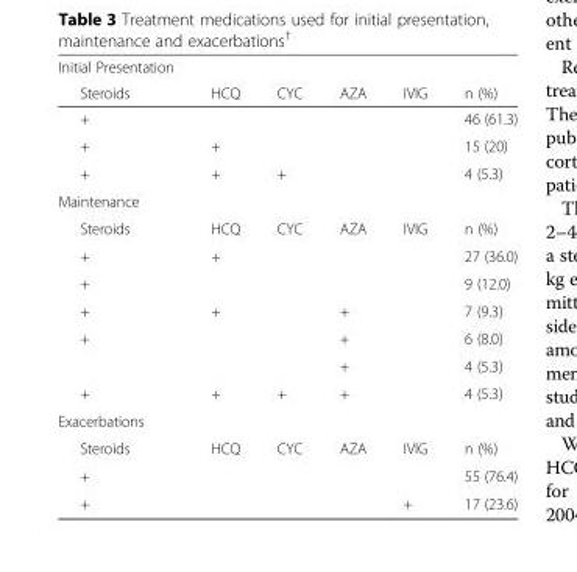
<table><thead><tr><td rowspan="2">Initial Presentation Steroids</td><td rowspan="2">HCQ</td><td rowspan="2">CYC</td><td rowspan="2">AZA</td><td rowspan="2">IVIG</td><td rowspan="2">n (%)</td></tr><tr></tr></thead><tbody><tr><td>+</td><td></td><td></td><td></td><td></td><td>46 (61.3)</td></tr><tr><td>+</td><td>+</td><td></td><td></td><td></td><td>15 (20)</td></tr><tr><td>+</td><td>+</td><td>+</td><td></td><td></td><td>4 (5.3)</td></tr><tr><td colspan="6">Maintenance</td></tr><tr><td>Steroids</td><td>HCQ</td><td>CYC</td><td>AZA</td><td>IVIG</td><td>n (%)</td></tr><tr><td>+</td><td>+</td><td></td><td></td><td></td><td>27 (36.0)</td></tr><tr><td>+</td><td></td><td></td><td></td><td></td><td>9 (12.0)</td></tr><tr><td>+</td><td>+</td><td></td><td>+</td><td></td><td>7 (9.3)</td></tr><tr><td rowspan="2">+</td><td></td><td></td><td>+</td><td></td><td>6 (8.0)</td></tr><tr><td></td><td></td><td>+</td><td></td><td>4 (5.3)</td></tr><tr><td>+</td><td>+</td><td>+</td><td>+</td><td></td><td>4 (5.3)</td></tr><tr><td colspan="6">Exacerbations</td></tr><tr><td>Steroids</td><td>HCQ</td><td>CYC</td><td>AZA</td><td>IVIG</td><td>n (%)</td></tr><tr><td>+</td><td></td><td></td><td></td><td></td><td>55 (76.4)</td></tr><tr><td>+</td><td></td><td></td><td></td><td>+</td><td>17 (23.6)</td></tr></tbody></table>